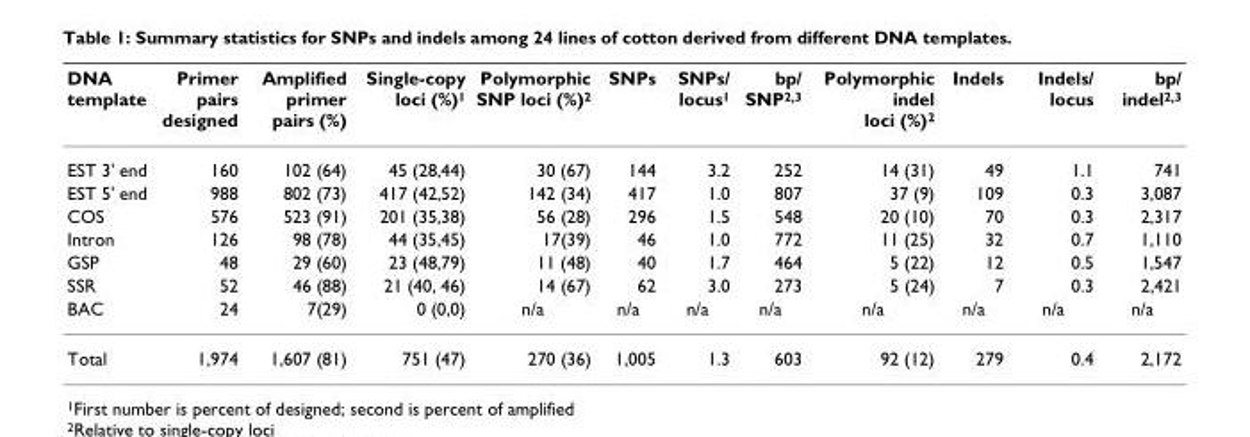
<table><thead><tr><td>DNA template</td><td>Primer pairs designed</td><td>Amplified primer pairs (%)</td><td>Single-copy loci (%)<sup>1</sup></td><td>Polymorphic SNP loci (%)<sup>2</sup></td><td>SNPs</td><td>SNPs/ locus<sup>1</sup></td><td>bp/ SNP<sup>2,3</sup></td><td>Polymorphic indel loci (%)<sup>2</sup></td><td>Indels</td><td>Indels/ locus</td><td>bp/ indel<sup>2,3</sup></td></tr></thead><tbody><tr><td>EST 3&#x27; end</td><td>160</td><td>102 (64)</td><td>45 (28,44)</td><td>30 (67)</td><td>144</td><td>3.2</td><td>252</td><td>14 (31)</td><td>49</td><td>1.1</td><td>741</td></tr><tr><td>EST 5&#x27; end</td><td>988</td><td>802 (73)</td><td>417 (42,52)</td><td>142 (34)</td><td>417</td><td>1.0</td><td>807</td><td>37 (9)</td><td>109</td><td>0.3</td><td>3,087</td></tr><tr><td>COS</td><td>576</td><td>523 (91)</td><td>201 (35,38)</td><td>56 (28)</td><td>296</td><td>1.5</td><td>548</td><td>20 (10)</td><td>70</td><td>0.3</td><td>2,317</td></tr><tr><td>Intron</td><td>126</td><td>98 (78)</td><td>44 (35,45)</td><td>17(39)</td><td>46</td><td>1.0</td><td>772</td><td>11 (25)</td><td>32</td><td>0.7</td><td>1,110</td></tr><tr><td>GSP</td><td>48</td><td>29 (60)</td><td>23 (48,79)</td><td>11 (48)</td><td>40</td><td>1.7</td><td>464</td><td>5 (22)</td><td>12</td><td>0.5</td><td>1,547</td></tr><tr><td>SSR</td><td>52</td><td>46 (88)</td><td>21 (40, 46)</td><td>14 (67)</td><td>62</td><td>3.0</td><td>273</td><td>5 (24)</td><td>7</td><td>0.3</td><td>2,421</td></tr><tr><td>BAC</td><td>24</td><td>7(29)</td><td>0 (0,0)</td><td>n/a</td><td>n/a</td><td>n/a</td><td>n/a</td><td>n/a</td><td>n/a</td><td>n/a</td><td>n/a</td></tr><tr><td>Total</td><td>1,974</td><td>1,607 (81)</td><td>751 (47)</td><td>270 (36)</td><td>1,005</td><td>1.3</td><td>603</td><td>92 (12)</td><td>279</td><td>0.4</td><td>2,172</td></tr></tbody></table>